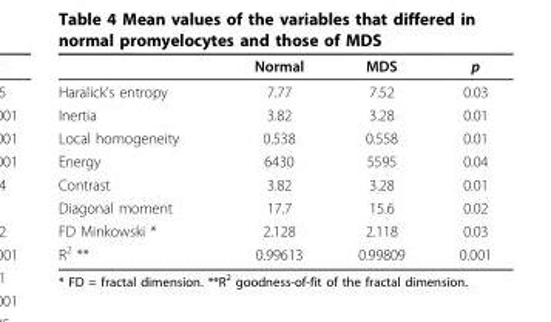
<table><thead><tr><td></td><td>Normal</td><td>MDS</td><td>p</td></tr></thead><tbody><tr><td>Haralick’s entropy</td><td>7.77</td><td>7.52</td><td>0.03</td></tr><tr><td>Inertia</td><td>3.82</td><td>3.28</td><td>0.01</td></tr><tr><td>Local homogeneity</td><td>0.538</td><td>0.558</td><td>0.01</td></tr><tr><td>Energy</td><td>6430</td><td>5595</td><td>0.04</td></tr><tr><td>Contrast</td><td>3.82</td><td>3.28</td><td>0.01</td></tr><tr><td>Diagonal moment</td><td>17.7</td><td>15.6</td><td>0.02</td></tr><tr><td>FD Minkowski *</td><td>2.128</td><td>2.118</td><td>0.03</td></tr><tr><td>R<sup>2</sup> **</td><td>0.99613</td><td>0.99809</td><td>0.001</td></tr></tbody></table>